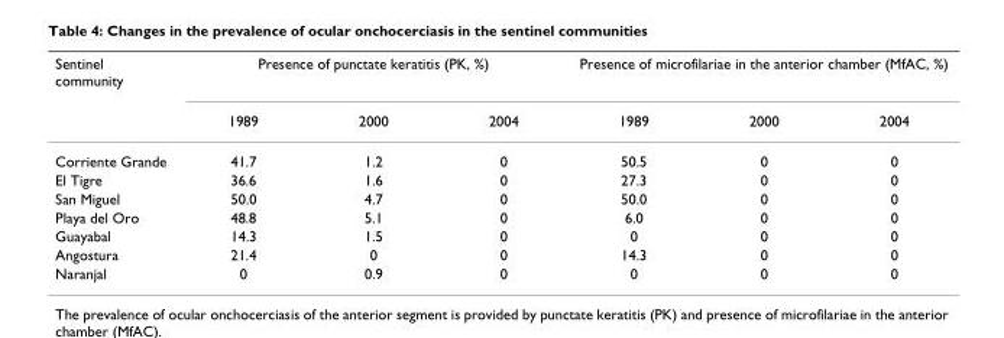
<table><thead><tr><td rowspan="2">Sentinel community</td><td colspan="3">Presence of punctate keratitis (PK, %)</td><td colspan="3">Presence of microfilariae in the anterior chamber (MfAC, %)</td></tr><tr><td>1989</td><td>2000</td><td>2004</td><td>1989</td><td>2000</td><td>2004</td></tr></thead><tbody><tr><td>Corriente Grande</td><td>41.7</td><td>1.2</td><td>0</td><td>50.5</td><td>0</td><td>0</td></tr><tr><td>El Tigre</td><td>36.6</td><td>1.6</td><td>0</td><td>27.3</td><td>0</td><td>0</td></tr><tr><td>San Miguel</td><td>50.0</td><td>4.7</td><td>0</td><td>50.0</td><td>0</td><td>0</td></tr><tr><td>Playa del Oro</td><td>48.8</td><td>5.1</td><td>0</td><td>6.0</td><td>0</td><td>0</td></tr><tr><td>Guayabal</td><td>14.3</td><td>1.5</td><td>0</td><td>0</td><td>0</td><td>0</td></tr><tr><td>Angostura</td><td>21.4</td><td>0</td><td>0</td><td>14.3</td><td>0</td><td>0</td></tr><tr><td>Naranjal</td><td>0</td><td>0.9</td><td>0</td><td>0</td><td>0</td><td>0</td></tr></tbody></table>